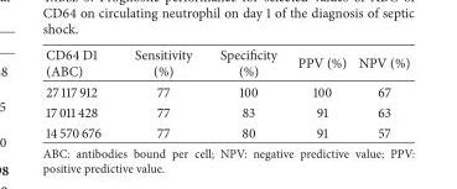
<table><thead><tr><td>CD64 D1 (ABC)</td><td>Sensitivity (%)</td><td>Specificity (%)</td><td>PPV (%)</td><td>NPV (%)</td></tr></thead><tbody><tr><td>27 117 912</td><td>77</td><td>100</td><td>100</td><td>67</td></tr><tr><td>17 011 428</td><td>77</td><td>83</td><td>91</td><td>63</td></tr><tr><td>14 570 676</td><td>77</td><td>80</td><td>91</td><td>57</td></tr></tbody></table>